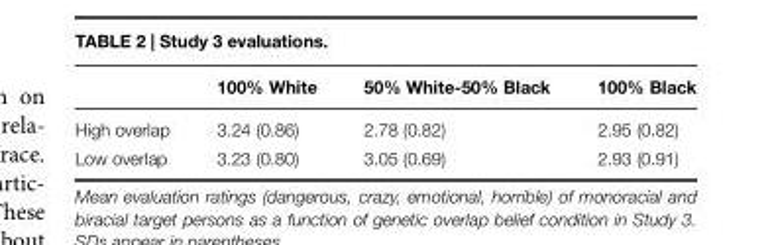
<table><thead><tr><td></td><td>100% White</td><td>50% White-50% Black</td><td>100% Black</td></tr></thead><tbody><tr><td>High overlap</td><td>3.24 (0.86)</td><td>2.78 (0.82)</td><td>2.95 (0.82)</td></tr><tr><td>Low overlap</td><td>3.23 (0.80)</td><td>3.05 (0.69)</td><td>2.93 (0.91)</td></tr></tbody></table>